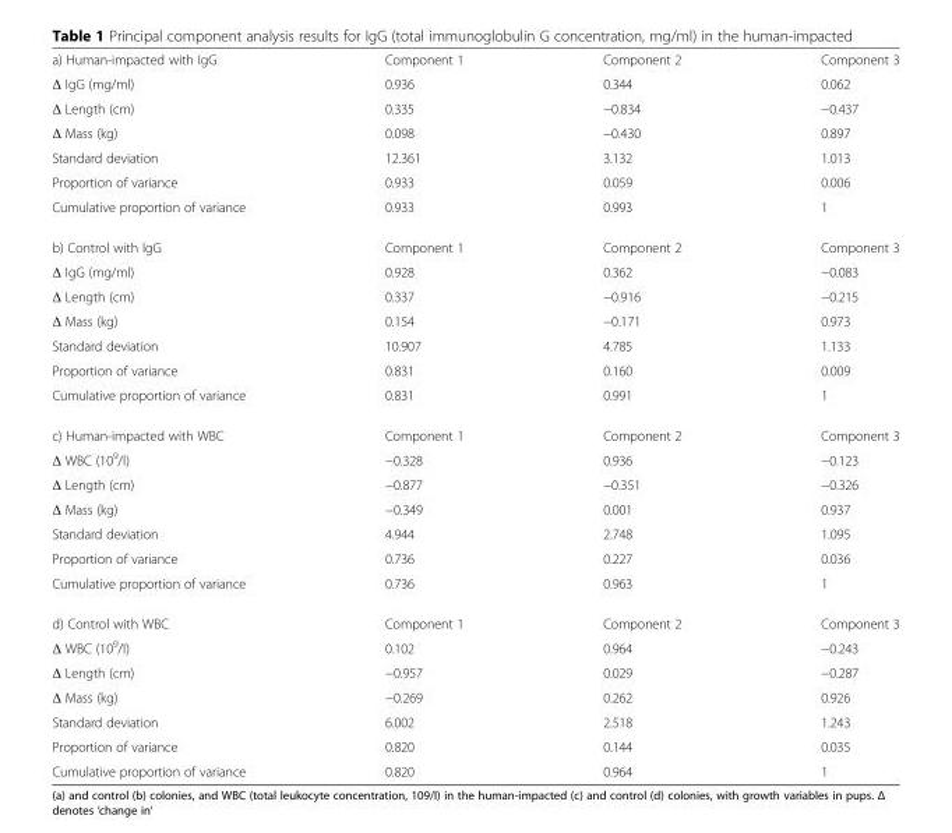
<table><tbody><tr><td>a) Human-impacted with IgG</td><td>Component 1</td><td>Component 2</td><td>Component 3</td></tr><tr><td>Δ IgG (mg/ml)</td><td>0.936</td><td>0.344</td><td>0.062</td></tr><tr><td>Δ Length (cm)</td><td>0.335</td><td>−0.834</td><td>−0.437</td></tr><tr><td>Δ Mass (kg)</td><td>0.098</td><td>−0.430</td><td>0.897</td></tr><tr><td>Standard deviation</td><td>12.361</td><td>3.132</td><td>1.013</td></tr><tr><td>Proportion of variance</td><td>0.933</td><td>0.059</td><td>0.006</td></tr><tr><td>Cumulative proportion of variance</td><td>0.933</td><td>0.993</td><td>1</td></tr><tr><td>b) Control with IgG</td><td>Component 1</td><td>Component 2</td><td>Component 3</td></tr><tr><td>Δ IgG (mg/ml)</td><td>0.928</td><td>0.362</td><td>−0.083</td></tr><tr><td>Δ Length (cm)</td><td>0.337</td><td>−0.916</td><td>−0.215</td></tr><tr><td>Δ Mass (kg)</td><td>0.154</td><td>−0.171</td><td>0.973</td></tr><tr><td>Standard deviation</td><td>10.907</td><td>4.785</td><td>1.133</td></tr><tr><td>Proportion of variance</td><td>0.831</td><td>0.160</td><td>0.009</td></tr><tr><td>Cumulative proportion of variance</td><td>0.831</td><td>0.991</td><td>1</td></tr><tr><td>c) Human-impacted with WBC</td><td>Component 1</td><td>Component 2</td><td>Component 3</td></tr><tr><td>Δ WBC (10<sup>9</sup>/l)</td><td>−0.328</td><td>0.936</td><td>−0.123</td></tr><tr><td>Δ Length (cm)</td><td>−0.877</td><td>−0.351</td><td>−0.326</td></tr><tr><td>Δ Mass (kg)</td><td>−0.349</td><td>0.001</td><td>0.937</td></tr><tr><td>Standard deviation</td><td>4.944</td><td>2.748</td><td>1.095</td></tr><tr><td>Proportion of variance</td><td>0.736</td><td>0.227</td><td>0.036</td></tr><tr><td>Cumulative proportion of variance</td><td>0.736</td><td>0.963</td><td>1</td></tr><tr><td>d) Control with WBC</td><td>Component 1</td><td>Component 2</td><td>Component 3</td></tr><tr><td>Δ WBC (10<sup>9</sup>/l)</td><td>0.102</td><td>0.964</td><td>−0.243</td></tr><tr><td>Δ Length (cm)</td><td>−0.957</td><td>0.029</td><td>−0.287</td></tr><tr><td>Δ Mass (kg)</td><td>−0.269</td><td>0.262</td><td>0.926</td></tr><tr><td>Standard deviation</td><td>6.002</td><td>2.518</td><td>1.243</td></tr><tr><td>Proportion of variance</td><td>0.820</td><td>0.144</td><td>0.035</td></tr><tr><td>Cumulative proportion of variance</td><td>0.820</td><td>0.964</td><td>1</td></tr></tbody></table>